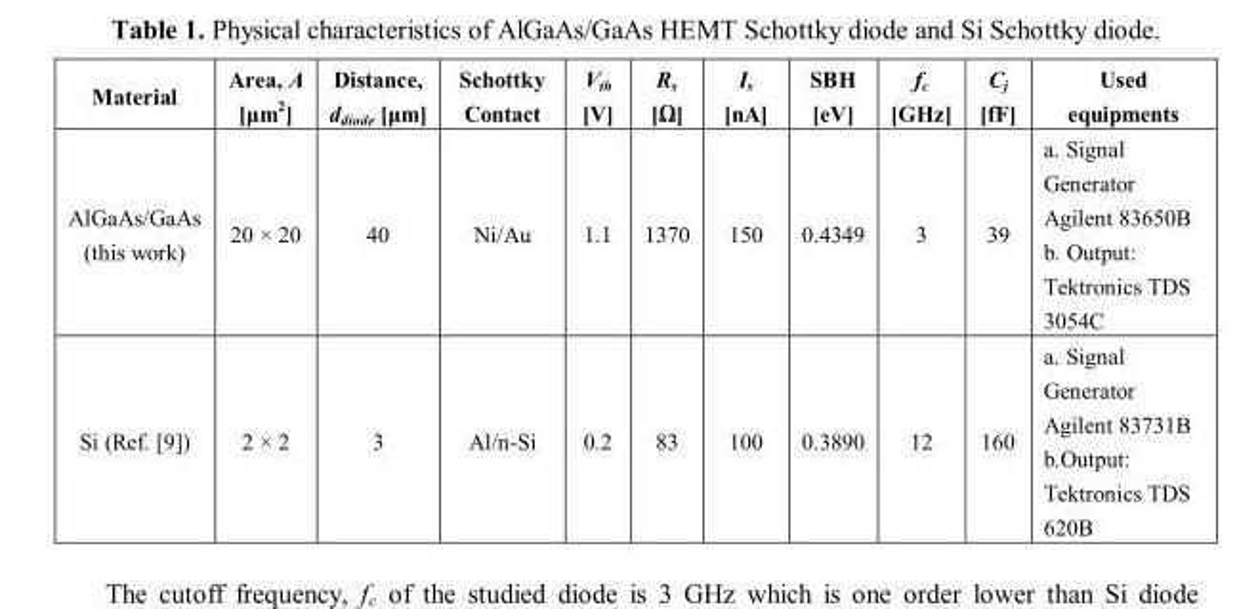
<table><thead><tr><td>Material</td><td>Area, A [μm<sup>2</sup>]</td><td>Distance, d<sub>diode</sub> [μm]</td><td>Schottky Contact</td><td>V<sub>th</sub> [V]</td><td>R<sub>s</sub> [Ω]</td><td>I<sub>s</sub> [nA]</td><td>SBH [eV]</td><td>f<sub>c</sub> [GHz]</td><td>C<sub>j</sub> [fF]</td><td>Used equipments</td></tr></thead><tbody><tr><td>AlGaAs/GaAs (this work)</td><td>20 × 20</td><td>40</td><td>Ni/Au</td><td>1.1</td><td>1370</td><td>150</td><td>0.4349</td><td>3</td><td>39</td><td>a. Signal Generator Agilent 83650B b. Output: Tektronics TDS 3054C</td></tr><tr><td>Si (Ref. [9])</td><td>2 × 2</td><td>3</td><td>Al/n-Si</td><td>0.2</td><td>83</td><td>100</td><td>0.3890</td><td>12</td><td>160</td><td>a. Signal Generator Agilent 83731B b.Output: Tektronics TDS 620B</td></tr></tbody></table>